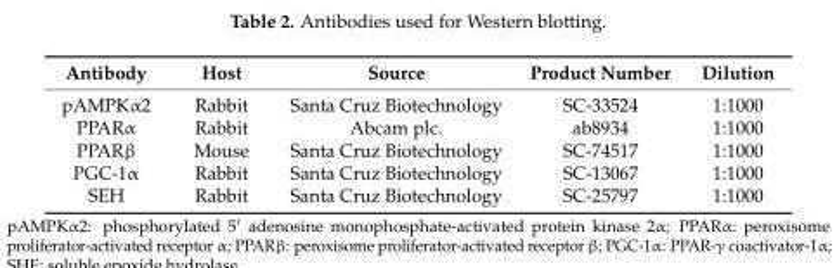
<table><thead><tr><td>Antibody</td><td>Host</td><td>Source</td><td>Product Number</td><td>Dilution</td></tr></thead><tbody><tr><td>pAMPKα2</td><td>Rabbit</td><td>Santa Cruz Biotechnology</td><td>SC-33524</td><td>1:1000</td></tr><tr><td>PPARα</td><td>Rabbit</td><td>Abcam plc.</td><td>ab8934</td><td>1:1000</td></tr><tr><td>PPARβ</td><td>Mouse</td><td>Santa Cruz Biotechnology</td><td>SC-74517</td><td>1:1000</td></tr><tr><td>PGC-1α</td><td>Rabbit</td><td>Santa Cruz Biotechnology</td><td>SC-13067</td><td>1:1000</td></tr><tr><td>SEH</td><td>Rabbit</td><td>Santa Cruz Biotechnology</td><td>SC-25797</td><td>1:1000</td></tr></tbody></table>